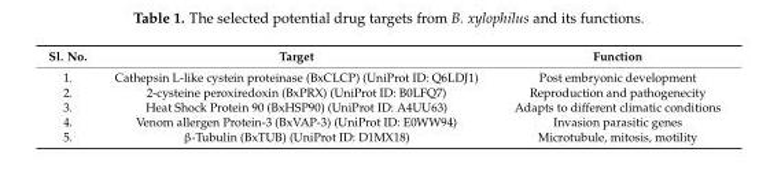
<table><thead><tr><td>Sl. No.</td><td>Target</td><td>Function</td></tr></thead><tbody><tr><td>1.</td><td>Cathepsin L-like cystein proteinase (BxCLCP) (UniProt ID: Q6LDJ1)</td><td>Post embryonic development</td></tr><tr><td>2.</td><td>2-cysteine peroxiredoxin (BxPRX) (UniProt ID: B0LFQ7)</td><td>Reproduction and pathogenecity</td></tr><tr><td>3.</td><td>Heat Shock Protein 90 (BxHSP90) (UniProt ID: A4UU63)</td><td>Adapts to different climatic conditions</td></tr><tr><td>4.</td><td>Venom allergen Protein-3 (BxVAP-3) (UniProt ID: E0WW94)</td><td>Invasion parasitic genes</td></tr><tr><td>5.</td><td>β-Tubulin (BxTUB) (UniProt ID: D1MX18)</td><td>Microtubule, mitosis, motility</td></tr></tbody></table>